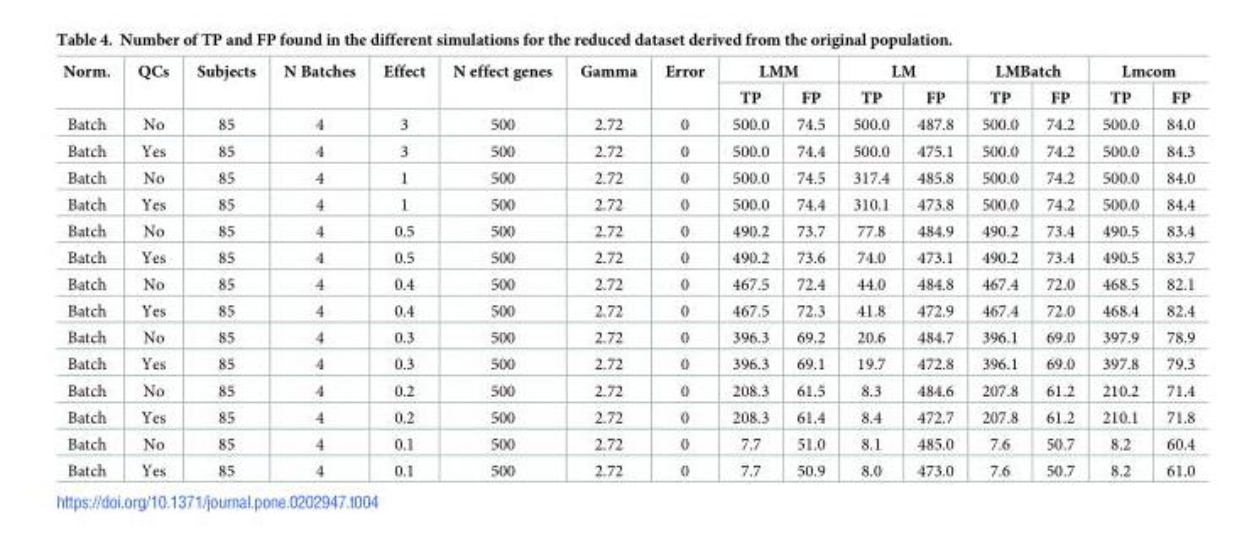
<table><thead><tr><td rowspan="2">Norm.</td><td rowspan="2">QCs</td><td rowspan="2">Subjects</td><td rowspan="2">N Batches</td><td rowspan="2">Effect</td><td rowspan="2">N effect genes</td><td rowspan="2">Gamma</td><td rowspan="2">Error</td><td colspan="2">LMM</td><td colspan="2">LM</td><td colspan="2">LMBatch</td><td colspan="2">Lmcom</td></tr><tr><td>TP</td><td>FP</td><td>TP</td><td>FP</td><td>TP</td><td>FP</td><td>TP</td><td>FP</td></tr></thead><tbody><tr><td>Batch</td><td>No</td><td>85</td><td>4</td><td>3</td><td>500</td><td>2.72</td><td>0</td><td>500.0</td><td>74.5</td><td>500.0</td><td>487.8</td><td>500.0</td><td>74.2</td><td>500.0</td><td>84.0</td></tr><tr><td>Batch</td><td>Yes</td><td>85</td><td>4</td><td>3</td><td>500</td><td>2.72</td><td>0</td><td>500.0</td><td>74.4</td><td>500.0</td><td>475.1</td><td>500.0</td><td>74.2</td><td>500.0</td><td>84.3</td></tr><tr><td>Batch</td><td>No</td><td>85</td><td>4</td><td>1</td><td>500</td><td>2.72</td><td>0</td><td>500.0</td><td>74.5</td><td>317.4</td><td>485.8</td><td>500.0</td><td>74.2</td><td>500.0</td><td>84.0</td></tr><tr><td>Batch</td><td>Yes</td><td>85</td><td>4</td><td>1</td><td>500</td><td>2.72</td><td>0</td><td>500.0</td><td>74.4</td><td>310.1</td><td>473.8</td><td>500.0</td><td>74.2</td><td>500.0</td><td>84.4</td></tr><tr><td>Batch</td><td>No</td><td>85</td><td>4</td><td>0.5</td><td>500</td><td>2.72</td><td>0</td><td>490.2</td><td>73.7</td><td>77.8</td><td>484.9</td><td>490.2</td><td>73.4</td><td>490.5</td><td>83.4</td></tr><tr><td>Batch</td><td>Yes</td><td>85</td><td>4</td><td>0.5</td><td>500</td><td>2.72</td><td>0</td><td>490.2</td><td>73.6</td><td>74.0</td><td>473.1</td><td>490.2</td><td>73.4</td><td>490.5</td><td>83.7</td></tr><tr><td>Batch</td><td>No</td><td>85</td><td>4</td><td>0.4</td><td>500</td><td>2.72</td><td>0</td><td>467.5</td><td>72.4</td><td>44.0</td><td>484.8</td><td>467.4</td><td>72.0</td><td>468.5</td><td>82.1</td></tr><tr><td>Batch</td><td>Yes</td><td>85</td><td>4</td><td>0.4</td><td>500</td><td>2.72</td><td>0</td><td>467.5</td><td>72.3</td><td>41.8</td><td>472.9</td><td>467.4</td><td>72.0</td><td>468.4</td><td>82.4</td></tr><tr><td>Batch</td><td>No</td><td>85</td><td>4</td><td>0.3</td><td>500</td><td>2.72</td><td>0</td><td>396.3</td><td>69.2</td><td>20.6</td><td>484.7</td><td>396.1</td><td>69.0</td><td>397.9</td><td>78.9</td></tr><tr><td>Batch</td><td>Yes</td><td>85</td><td>4</td><td>0.3</td><td>500</td><td>2.72</td><td>0</td><td>396.3</td><td>69.1</td><td>19.7</td><td>472.8</td><td>396.1</td><td>69.0</td><td>397.8</td><td>79.3</td></tr><tr><td>Batch</td><td>No</td><td>85</td><td>4</td><td>0.2</td><td>500</td><td>2.72</td><td>0</td><td>208.3</td><td>61.5</td><td>8.3</td><td>484.6</td><td>207.8</td><td>61.2</td><td>210.2</td><td>71.4</td></tr><tr><td>Batch</td><td>Yes</td><td>85</td><td>4</td><td>0.2</td><td>500</td><td>2.72</td><td>0</td><td>208.3</td><td>61.4</td><td>8.4</td><td>472.7</td><td>207.8</td><td>61.2</td><td>210.1</td><td>71.8</td></tr><tr><td>Batch</td><td>No</td><td>85</td><td>4</td><td>0.1</td><td>500</td><td>2.72</td><td>0</td><td>7.7</td><td>51.0</td><td>8.1</td><td>485.0</td><td>7.6</td><td>50.7</td><td>8.2</td><td>60.4</td></tr><tr><td>Batch</td><td>Yes</td><td>85</td><td>4</td><td>0.1</td><td>500</td><td>2.72</td><td>0</td><td>7.7</td><td>50.9</td><td>8.0</td><td>473.0</td><td>7.6</td><td>50.7</td><td>8.2</td><td>61.0</td></tr></tbody></table>